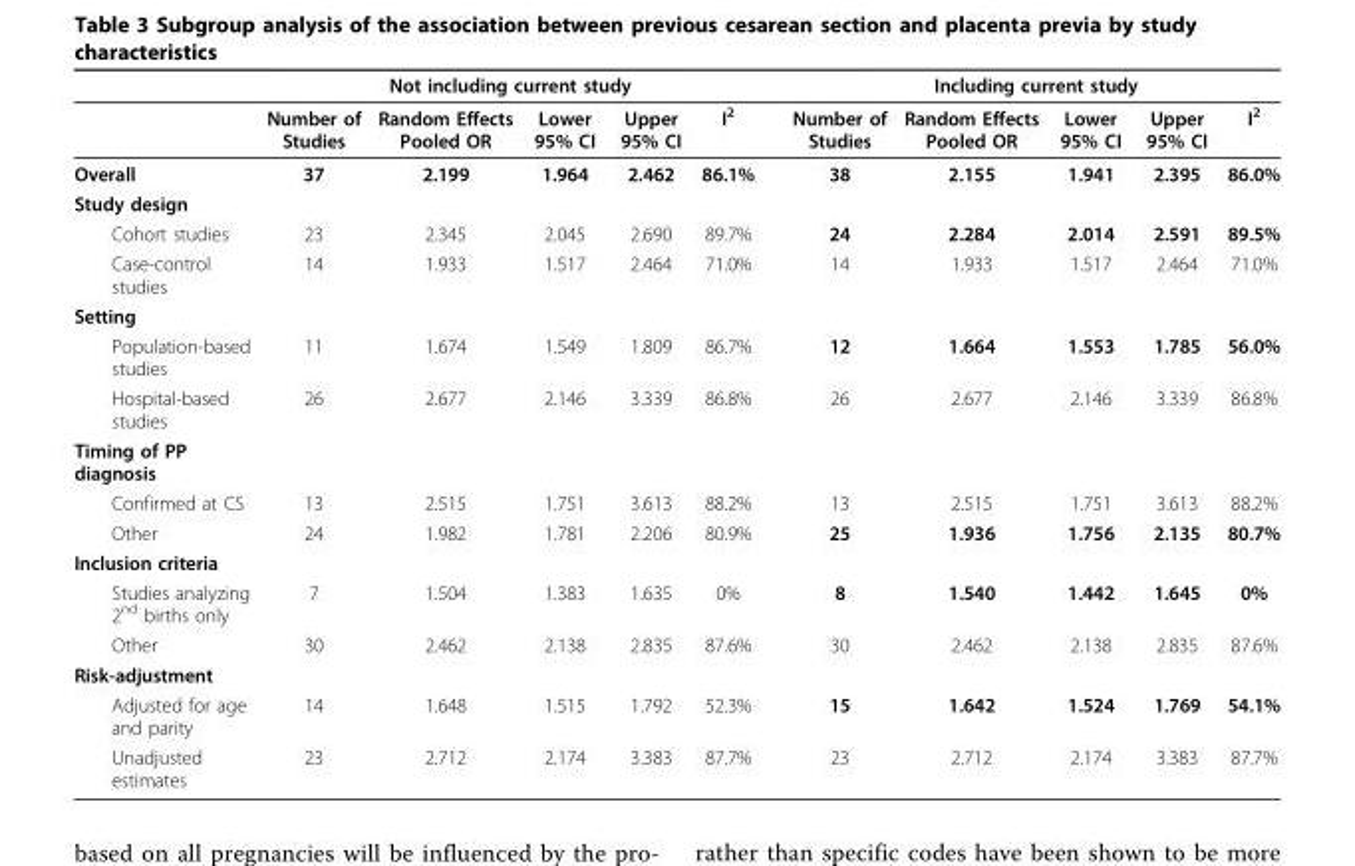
<table><thead><tr><td rowspan="2"></td><td colspan="5">Not including current study</td><td colspan="5">Including current study</td></tr><tr><td>Number of Studies</td><td>Random Effects Pooled OR</td><td>Lower 95% CI</td><td>Upper 95% CI</td><td>I<sup>2</sup></td><td>Number of Studies</td><td>Random Effects Pooled OR</td><td>Lower 95% CI</td><td>Upper 95% CI</td><td>I<sup>2</sup></td></tr></thead><tbody><tr><td>Overall</td><td>37</td><td>2.199</td><td>1.964</td><td>2.462</td><td>86.1%</td><td>38</td><td>2.155</td><td>1.941</td><td>2.395</td><td>86.0%</td></tr><tr><td colspan="11">Study design</td></tr><tr><td>Cohort studies</td><td>23</td><td>2.345</td><td>2.045</td><td>2.690</td><td>89.7%</td><td>24</td><td>2.284</td><td>2.014</td><td>2.591</td><td>89.5%</td></tr><tr><td>Case-control studies</td><td>14</td><td>1.933</td><td>1.517</td><td>2.464</td><td>71.0%</td><td>14</td><td>1.933</td><td>1.517</td><td>2.464</td><td>71.0%</td></tr><tr><td colspan="11">Setting</td></tr><tr><td>Population-based studies</td><td>11</td><td>1.674</td><td>1.549</td><td>1.809</td><td>86.7%</td><td>12</td><td>1.664</td><td>1.553</td><td>1.785</td><td>56.0%</td></tr><tr><td>Hospital-based studies</td><td>26</td><td>2.677</td><td>2.146</td><td>3.339</td><td>86.8%</td><td>26</td><td>2.677</td><td>2.146</td><td>3.339</td><td>86.8%</td></tr><tr><td colspan="11">Timing of PP diagnosis</td></tr><tr><td>Confirmed at CS</td><td>13</td><td>2.515</td><td>1.751</td><td>3.613</td><td>88.2%</td><td>13</td><td>2.515</td><td>1.751</td><td>3.613</td><td>88.2%</td></tr><tr><td>Other</td><td>24</td><td>1.982</td><td>1.781</td><td>2.206</td><td>80.9%</td><td>25</td><td>1.936</td><td>1.756</td><td>2.135</td><td>80.7%</td></tr><tr><td colspan="11">Inclusion criteria</td></tr><tr><td>Studies analyzing 2<sup>nd</sup> births only</td><td>7</td><td>1.504</td><td>1.383</td><td>1.635</td><td>0%</td><td>8</td><td>1.540</td><td>1.442</td><td>1.645</td><td>0%</td></tr><tr><td>Other</td><td>30</td><td>2.462</td><td>2.138</td><td>2.835</td><td>87.6%</td><td>30</td><td>2.462</td><td>2.138</td><td>2.835</td><td>87.6%</td></tr><tr><td colspan="11">Risk-adjustment</td></tr><tr><td>Adjusted for age and parity</td><td>14</td><td>1.648</td><td>1.515</td><td>1.792</td><td>52.3%</td><td>15</td><td>1.642</td><td>1.524</td><td>1.769</td><td>54.1%</td></tr><tr><td>Unadjusted estimates</td><td>23</td><td>2.712</td><td>2.174</td><td>3.383</td><td>87.7%</td><td>23</td><td>2.712</td><td>2.174</td><td>3.383</td><td>87.7%</td></tr></tbody></table>